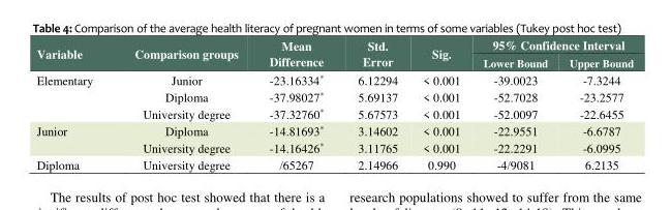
<table><thead><tr><td rowspan="2">Variable</td><td rowspan="2">Comparison groups</td><td rowspan="2">Mean Difference</td><td rowspan="2">Std. Error</td><td rowspan="2">Sig.</td><td colspan="2">95% Confidence Interval</td></tr><tr><td>Lower Bound</td><td>Upper Bound</td></tr></thead><tbody><tr><td rowspan="3">Elementary</td><td>Junior</td><td>-23.16334*</td><td>6.12294</td><td>&lt; 0.001</td><td>-39.0023</td><td>-7.3244</td></tr><tr><td>Diploma</td><td>-37.98027*</td><td>5.69137</td><td>&lt; 0.001</td><td>-52.7028</td><td>-23.2577</td></tr><tr><td>University degree</td><td>-37.32760*</td><td>5.67573</td><td>&lt; 0.001</td><td>-52.0097</td><td>-22.6455</td></tr><tr><td rowspan="2">Junior</td><td>Diploma</td><td>-14.81693*</td><td>3.14602</td><td>&lt; 0.001</td><td>-22.9551</td><td>-6.6787</td></tr><tr><td>University degree</td><td>-14.16426*</td><td>3.11765</td><td>&lt; 0.001</td><td>-22.2291</td><td>-6.0995</td></tr><tr><td>Diploma</td><td>University degree</td><td>/65267</td><td>2.14966</td><td>0.990</td><td>-4/9081</td><td>6.2135</td></tr></tbody></table>